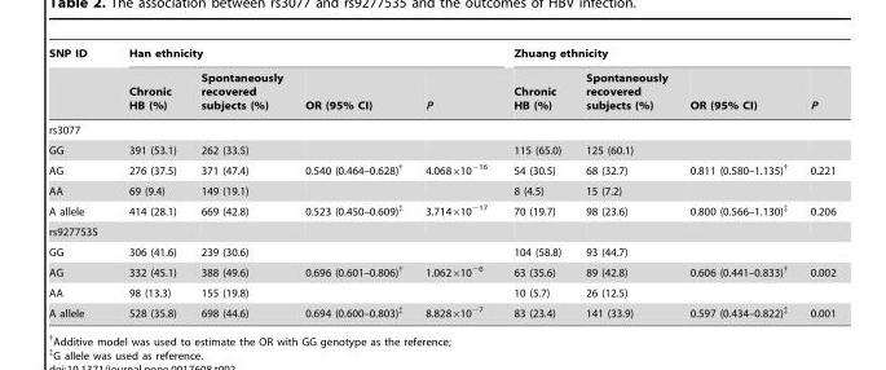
<table><thead><tr><td rowspan="2">SNP ID</td><td colspan="4">Han ethnicity</td><td colspan="4">Zhuang ethnicity</td></tr><tr><td>Chronic HB (%)</td><td>Spontaneously recovered subjects (%)</td><td>OR (95% CI)</td><td>P</td><td>Chronic HB (%)</td><td>Spontaneously recovered subjects (%)</td><td>OR (95% CI)</td><td>P</td></tr></thead><tbody><tr><td colspan="9">rs3077</td></tr><tr><td>GG</td><td>391 (53.1)</td><td>262 (33.5)</td><td></td><td></td><td>115 (65.0)</td><td>125 (60.1)</td><td></td><td></td></tr><tr><td>AG</td><td>276 (37.5)</td><td>371 (47.4)</td><td>0.540 (0.464–0.628)†</td><td>4.068×10<sup>−16</sup></td><td>54 (30.5)</td><td>68 (32.7)</td><td>0.811 (0.580–1.135)†</td><td>0.221</td></tr><tr><td>AA</td><td>69 (9.4)</td><td>149 (19.1)</td><td></td><td></td><td>8 (4.5)</td><td>15 (7.2)</td><td></td><td></td></tr><tr><td>A allele</td><td>414 (28.1)</td><td>669 (42.8)</td><td>0.523 (0.450–0.609)‡</td><td>3.714×10<sup>−17</sup></td><td>70 (19.7)</td><td>98 (23.6)</td><td>0.800 (0.566–1.130)‡</td><td>0.206</td></tr><tr><td colspan="9">rs9277535</td></tr><tr><td>GG</td><td>306 (41.6)</td><td>239 (30.6)</td><td></td><td></td><td>104 (58.8)</td><td>93 (44.7)</td><td></td><td></td></tr><tr><td>AG</td><td>332 (45.1)</td><td>388 (49.6)</td><td>0.696 (0.601–0.806)†</td><td>1.062×10<sup>−6</sup></td><td>63 (35.6)</td><td>89 (42.8)</td><td>0.606 (0.441–0.833)†</td><td>0.002</td></tr><tr><td>AA</td><td>98 (13.3)</td><td>155 (19.8)</td><td></td><td></td><td>10 (5.7)</td><td>26 (12.5)</td><td></td><td></td></tr><tr><td>A allele</td><td>528 (35.8)</td><td>698 (44.6)</td><td>0.694 (0.600–0.803)‡</td><td>8.828×10<sup>−7</sup></td><td>83 (23.4)</td><td>141 (33.9)</td><td>0.597 (0.434–0.822)‡</td><td>0.001</td></tr></tbody></table>